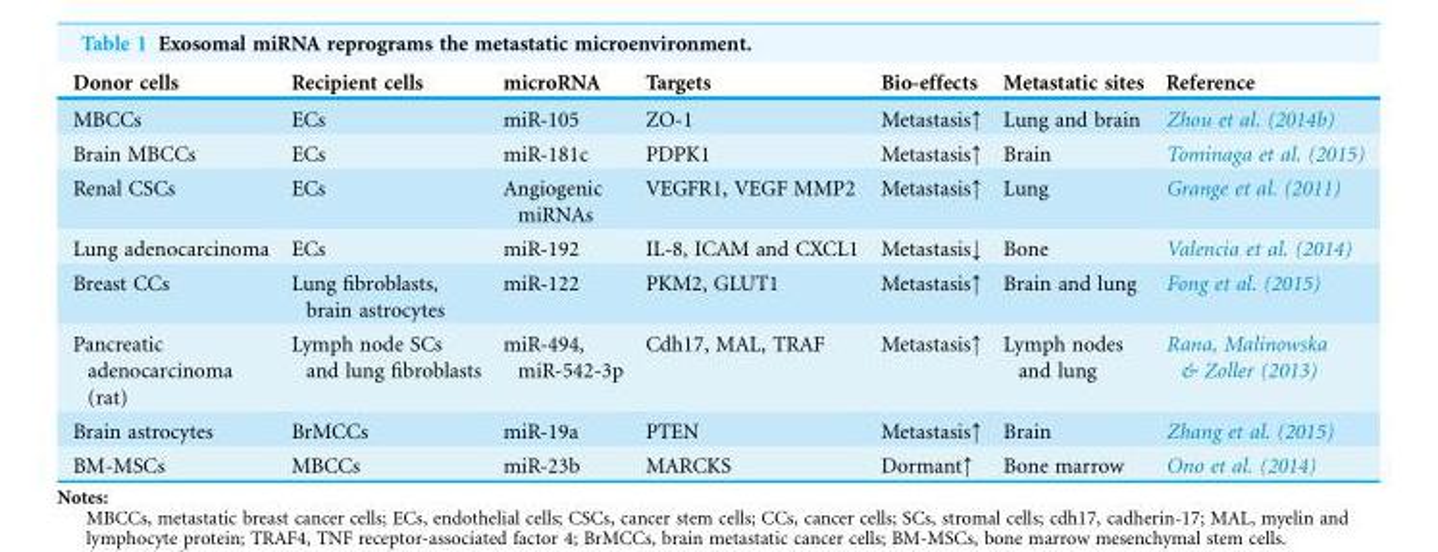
<table><thead><tr><td>Donor cells</td><td>Recipient cells</td><td>microRNA</td><td>Targets</td><td>Bio-effects</td><td>Metastatic sites</td><td>Reference</td></tr></thead><tbody><tr><td>MBCCs</td><td>ECs</td><td>miR-105</td><td>ZO-1</td><td>Metastasis↑</td><td>Lung and brain</td><td>Zhou et al. (2014b)</td></tr><tr><td>Brain MBCCs</td><td>ECs</td><td>miR-181c</td><td>PDPK1</td><td>Metastasis↑</td><td>Brain</td><td>Tominaga et al. (2015)</td></tr><tr><td>Renal CSCs</td><td>ECs</td><td>Angiogenic miRNAs</td><td>VEGFR1, VEGF MMP2</td><td>Metastasis↑</td><td>Lung</td><td>Grange et al. (2011)</td></tr><tr><td>Lung adenocarcinoma</td><td>ECs</td><td>miR-192</td><td>IL-8, ICAM and CXCL1</td><td>Metastasis↓</td><td>Bone</td><td>Valencia et al. (2014)</td></tr><tr><td>Breast CCs</td><td>Lung fibroblasts, brain astrocytes</td><td>miR-122</td><td>PKM2, GLUT1</td><td>Metastasis↑</td><td>Brain and lung</td><td>Fong et al. (2015)</td></tr><tr><td>Pancreatic adenocarcinoma (rat)</td><td>Lymph node SCs and lung fibroblasts</td><td>miR-494, miR-542-3p</td><td>Cdh17, MAL, TRAF</td><td>Metastasis↑</td><td>Lymph nodes and lung</td><td>Rana, Malinowska &amp; Zoller (2013)</td></tr><tr><td>Brain astrocytes</td><td>BrMCCs</td><td>miR-19a</td><td>PTEN</td><td>Metastasis↑</td><td>Brain</td><td>Zhang et al. (2015)</td></tr><tr><td>BM-MSCs</td><td>MBCCs</td><td>miR-23b</td><td>MARCKS</td><td>Dormant↑</td><td>Bone marrow</td><td>Ono et al. (2014)</td></tr></tbody></table>